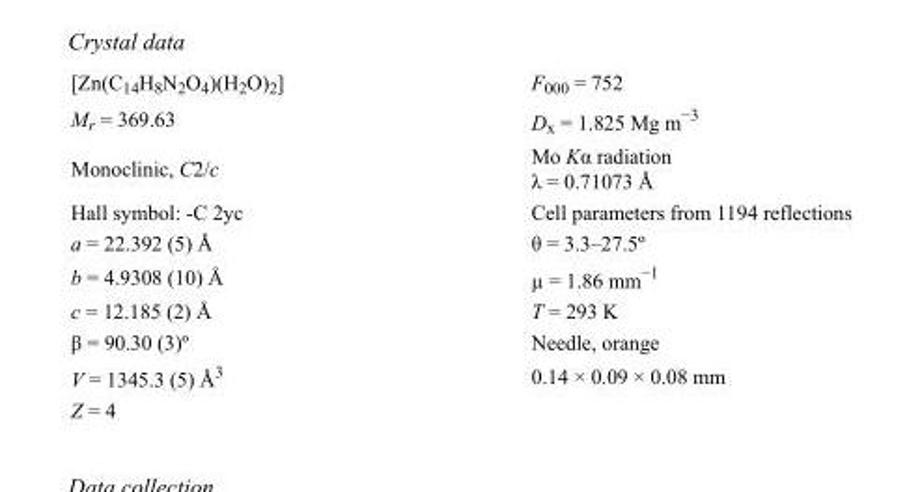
<table><tbody><tr><td>[Zn(C<sub>14</sub>H<sub>8</sub>N<sub>2</sub>O<sub>4</sub>)(H<sub>2</sub>O)<sub>2</sub>]</td><td>F000 = 752</td></tr><tr><td>M<sub>r</sub> = 369.63</td><td>D<sub>x</sub> = 1.825 Mg m<sup>−3</sup></td></tr><tr><td>Monoclinic, C2/c</td><td>Mo Kα radiation λ = 0.71073 Å</td></tr><tr><td>Hall symbol: -C 2yc</td><td>Cell parameters from 1194 reflections</td></tr><tr><td>a = 22.392 (5) Å</td><td>θ = 3.3–27.5º</td></tr><tr><td>b = 4.9308 (10) Å</td><td>µ = 1.86 mm<sup>−1</sup></td></tr><tr><td>c = 12.185 (2) Å</td><td>T = 293 K</td></tr><tr><td>β = 90.30 (3)º</td><td>Needle, orange</td></tr><tr><td>V = 1345.3 (5) Å<sup>3</sup></td><td>0.14 × 0.09 × 0.08 mm</td></tr><tr><td>Z = 4</td><td></td></tr></tbody></table>